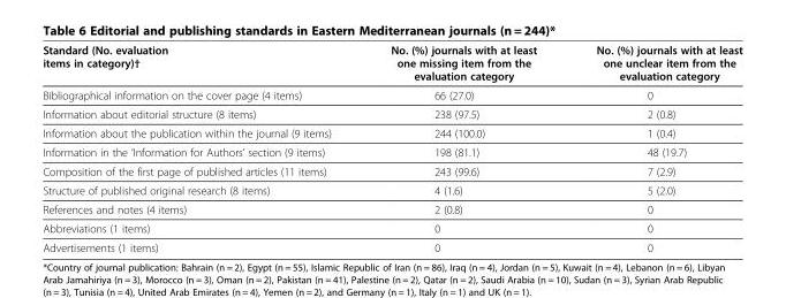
<table><thead><tr><td>Standard (No. evaluation items in category)†</td><td>No. (%) journals with at least one missing item from the evaluation category</td><td>No. (%) journals with at least one unclear item from the evaluation category</td></tr></thead><tbody><tr><td>Bibliographical information on the cover page (4 items)</td><td>66 (27.0)</td><td>0</td></tr><tr><td>Information about editorial structure (8 items)</td><td>238 (97.5)</td><td>2 (0.8)</td></tr><tr><td>Information about the publication within the journal (9 items)</td><td>244 (100.0)</td><td>1 (0.4)</td></tr><tr><td>Information in the ‘Information for Authors’ section (9 items)</td><td>198 (81.1)</td><td>48 (19.7)</td></tr><tr><td>Composition of the first page of published articles (11 items)</td><td>243 (99.6)</td><td>7 (2.9)</td></tr><tr><td>Structure of published original research (8 items)</td><td>4 (1.6)</td><td>5 (2.0)</td></tr><tr><td>References and notes (4 items)</td><td>2 (0.8)</td><td>0</td></tr><tr><td>Abbreviations (1 items)</td><td>0</td><td>0</td></tr><tr><td>Advertisements (1 items)</td><td>0</td><td>0</td></tr></tbody></table>